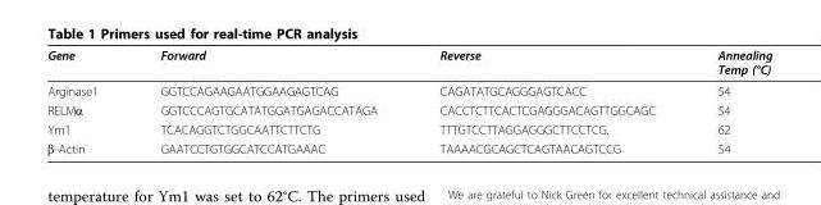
<table><thead><tr><td>Gene</td><td>Forward</td><td>Reverse</td><td>Annealing Temp (°C)</td></tr></thead><tbody><tr><td>Arginase1</td><td>GGTCCAGAAGAATGGAAGAGTCAG</td><td>CAGATATGCAGGGAGTCACC</td><td>54</td></tr><tr><td>RELMα</td><td>GGTCCCAGTGCATATGGATGAGACCATAGA</td><td>CACCTCTTCACTCGAGGGACAGTTGGCAGC</td><td>54</td></tr><tr><td>Ym1</td><td>TCACAGGTCTGGCAATTCTTCTG</td><td>TTTGTCCTTAGGAGGGCTTCCTCG.</td><td>62</td></tr><tr><td>β-Actin</td><td>GAATCCTGTGGCATCCATGAAAC</td><td>TAAAACGCAGCTCAGTAACAGTCCG</td><td>54</td></tr></tbody></table>